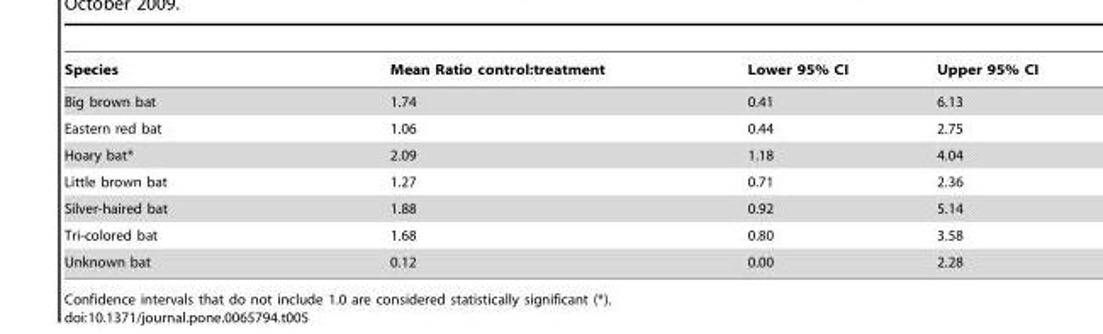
<table><thead><tr><td>Species</td><td>Mean Ratio control:treatment</td><td>Lower 95% CI</td><td>Upper 95% CI</td></tr></thead><tbody><tr><td>Big brown bat</td><td>1.74</td><td>0.41</td><td>6.13</td></tr><tr><td>Eastern red bat</td><td>1.06</td><td>0.44</td><td>2.75</td></tr><tr><td>Hoary bat*</td><td>2.09</td><td>1.18</td><td>4.04</td></tr><tr><td>Little brown bat</td><td>1.27</td><td>0.71</td><td>2.36</td></tr><tr><td>Silver-haired bat</td><td>1.88</td><td>0.92</td><td>5.14</td></tr><tr><td>Tri-colored bat</td><td>1.68</td><td>0.80</td><td>3.58</td></tr><tr><td>Unknown bat</td><td>0.12</td><td>0.00</td><td>2.28</td></tr></tbody></table>